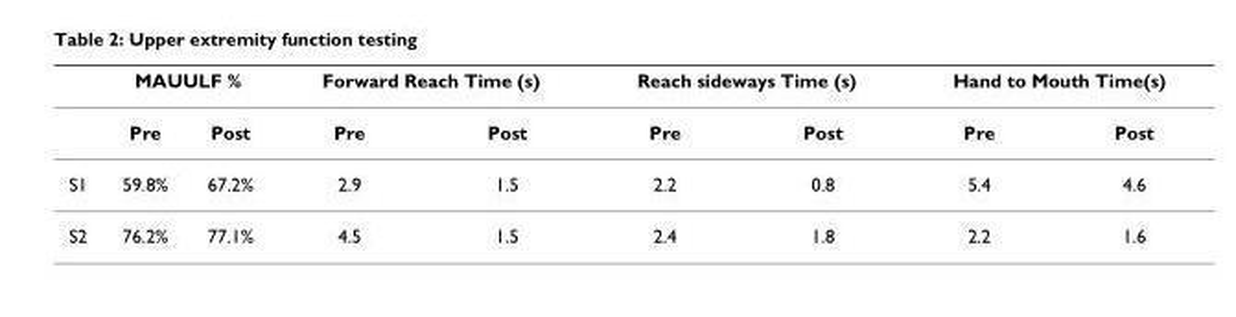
<table><thead><tr><td rowspan="2"></td><td colspan="2">MAUULF %</td><td colspan="2">Forward Reach Time (s)</td><td colspan="2">Reach sideways Time (s)</td><td colspan="2">Hand to Mouth Time(s)</td></tr><tr><td>Pre</td><td>Post</td><td>Pre</td><td>Post</td><td>Pre</td><td>Post</td><td>Pre</td><td>Post</td></tr></thead><tbody><tr><td>S1</td><td>59.8%</td><td>67.2%</td><td>2.9</td><td>1.5</td><td>2.2</td><td>0.8</td><td>5.4</td><td>4.6</td></tr><tr><td>S2</td><td>76.2%</td><td>77.1%</td><td>4.5</td><td>1.5</td><td>2.4</td><td>1.8</td><td>2.2</td><td>1.6</td></tr></tbody></table>